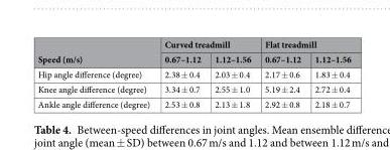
<table><thead><tr><td rowspan="2">Speed (m/s)</td><td colspan="2">Curved treadmill</td><td colspan="2">Flat treadmill</td></tr><tr><td>0.67–1.12</td><td>1.12–1.56</td><td>0.67–1.12</td><td>1.12–1.56</td></tr></thead><tbody><tr><td>Hip angle difference (degree)</td><td>2.38 ± 0.4</td><td>2.03 ± 0.4</td><td>2.17 ± 0.6</td><td>1.83 ± 0.4</td></tr><tr><td>Knee angle difference (degree)</td><td>3.34 ± 0.7</td><td>2.55 ± 1.0</td><td>5.19 ± 2.4</td><td>2.72 ± 0.4</td></tr><tr><td>Ankle angle difference (degree)</td><td>2.53 ± 0.8</td><td>2.13 ± 1.8</td><td>2.92 ± 0.8</td><td>2.18 ± 0.7</td></tr></tbody></table>